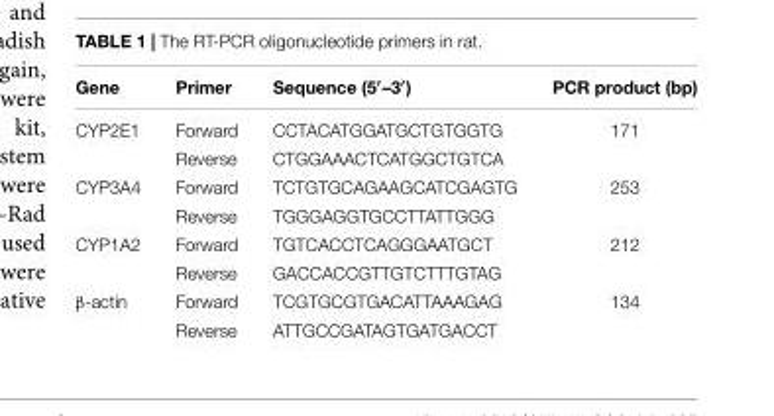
<table><thead><tr><td>Gene</td><td>Primer</td><td>Sequence (5′–3′)</td><td>PCR product (bp)</td></tr></thead><tbody><tr><td rowspan="2">CYP2E1</td><td>Forward</td><td>CCTACATGGATGCTGTGGTG</td><td>171</td></tr><tr><td>Reverse</td><td>CTGGAAACTCATGGCTGTCA</td><td></td></tr><tr><td rowspan="2">CYP3A4</td><td>Forward</td><td>TCTGTGCAGAAGCATCGAGTG</td><td>253</td></tr><tr><td>Reverse</td><td>TGGGAGGTGCCTTATTGGG</td><td></td></tr><tr><td rowspan="2">CYP1A2</td><td>Forward</td><td>TGTCACCTCAGGGAATGCT</td><td>212</td></tr><tr><td>Reverse</td><td>GACCACCGTTGTCTTTGTAG</td><td></td></tr><tr><td rowspan="2">β-actin</td><td>Forward</td><td>TCGTGCGTGACATTAAAGAG</td><td>134</td></tr><tr><td>Reverse</td><td>ATTGCCGATAGTGATGACCT</td><td></td></tr></tbody></table>